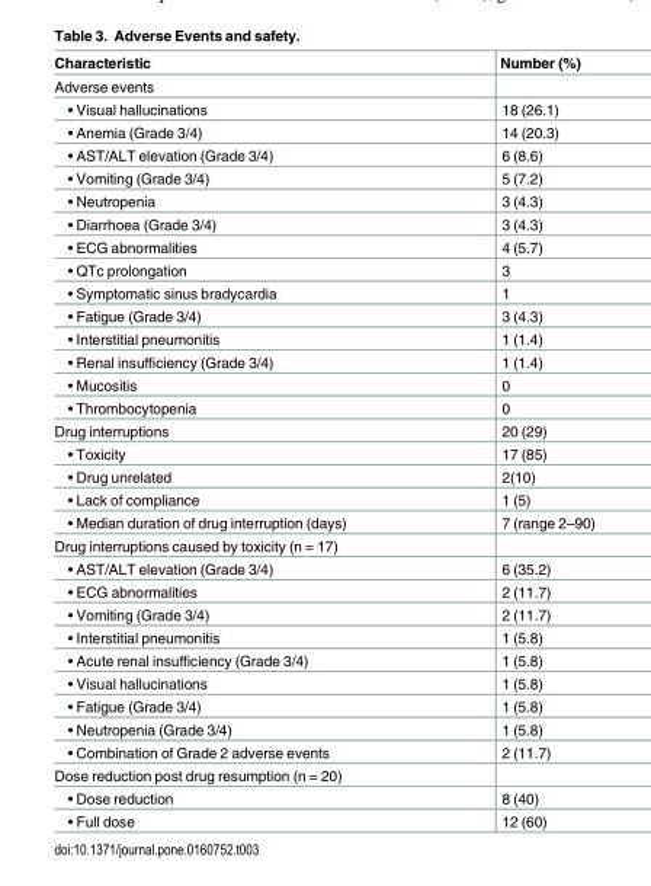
<table><thead><tr><td>Characteristic</td><td>Number (%)</td></tr></thead><tbody><tr><td colspan="2">Adverse events</td></tr><tr><td>• Visual hallucinations</td><td>18 (26.1)</td></tr><tr><td>• Anemia (Grade 3/4)</td><td>14 (20.3)</td></tr><tr><td>• AST/ALT elevation (Grade 3/4)</td><td>6 (8.6)</td></tr><tr><td>• Vomiting (Grade 3/4)</td><td>5 (7.2)</td></tr><tr><td>• Neutropenia</td><td>3 (4.3)</td></tr><tr><td>• Diarrhoea (Grade 3/4)</td><td>3 (4.3)</td></tr><tr><td>• ECG abnormalities</td><td>4 (5.7)</td></tr><tr><td>• QTc prolongation</td><td>3</td></tr><tr><td>• Symptomatic sinus bradycardia</td><td>1</td></tr><tr><td>• Fatigue (Grade 3/4)</td><td>3 (4.3)</td></tr><tr><td>• Interstitial pneumonitis</td><td>1 (1.4)</td></tr><tr><td>• Renal insufficiency (Grade 3/4)</td><td>1 (1.4)</td></tr><tr><td>• Mucositis</td><td>0</td></tr><tr><td>• Thrombocytopenia</td><td>0</td></tr><tr><td>Drug interruptions</td><td>20 (29)</td></tr><tr><td>• Toxicity</td><td>17 (85)</td></tr><tr><td>• Drug unrelated</td><td>2(10)</td></tr><tr><td>• Lack of compliance</td><td>1 (5)</td></tr><tr><td>• Median duration of drug interruption (days)</td><td>7 (range 2–90)</td></tr><tr><td colspan="2">Drug interruptions caused by toxicity (n = 17)</td></tr><tr><td>• AST/ALT elevation (Grade 3/4)</td><td>6 (35.2)</td></tr><tr><td>• ECG abnormalities</td><td>2 (11.7)</td></tr><tr><td>• Vomiting (Grade 3/4)</td><td>2 (11.7)</td></tr><tr><td>• Interstitial pneumonitis</td><td>1 (5.8)</td></tr><tr><td>• Acute renal insufficiency (Grade 3/4)</td><td>1 (5.8)</td></tr><tr><td>• Visual hallucinations</td><td>1 (5.8)</td></tr><tr><td>• Fatigue (Grade 3/4)</td><td>1 (5.8)</td></tr><tr><td>• Neutropenia (Grade 3/4)</td><td>1 (5.8)</td></tr><tr><td>• Combination of Grade 2 adverse events</td><td>2 (11.7)</td></tr><tr><td colspan="2">Dose reduction post drug resumption (n = 20)</td></tr><tr><td>• Dose reduction</td><td>8 (40)</td></tr><tr><td>• Full dose</td><td>12 (60)</td></tr></tbody></table>